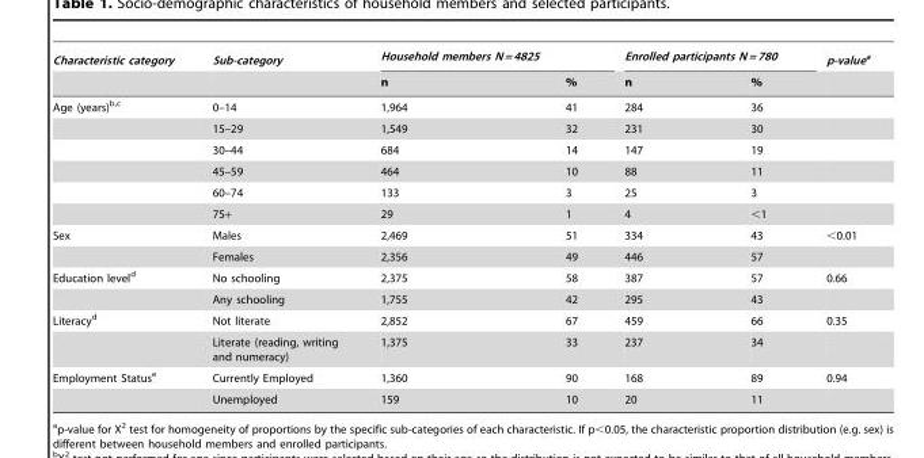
<table><thead><tr><td rowspan="2">Characteristic category</td><td rowspan="2">Sub-category</td><td colspan="2">Household members N = 4825</td><td colspan="2">Enrolled participants N = 780</td><td rowspan="2">p-valuea</td></tr><tr><td>n</td><td>%</td><td>n</td><td>%</td></tr></thead><tbody><tr><td rowspan="6">Age (years)b,c</td><td>0–14</td><td>1,964</td><td>41</td><td>284</td><td>36</td><td></td></tr><tr><td>15–29</td><td>1,549</td><td>32</td><td>231</td><td>30</td><td></td></tr><tr><td>30–44</td><td>684</td><td>14</td><td>147</td><td>19</td><td></td></tr><tr><td>45–59</td><td>464</td><td>10</td><td>88</td><td>11</td><td></td></tr><tr><td>60–74</td><td>133</td><td>3</td><td>25</td><td>3</td><td></td></tr><tr><td>75+</td><td>29</td><td>1</td><td>4</td><td>&lt;1</td><td></td></tr><tr><td rowspan="2">Sex</td><td>Males</td><td>2,469</td><td>51</td><td>334</td><td>43</td><td>&lt;0.01</td></tr><tr><td>Females</td><td>2,356</td><td>49</td><td>446</td><td>57</td><td></td></tr><tr><td rowspan="2">Education level<sup>d</sup></td><td>No schooling</td><td>2,375</td><td>58</td><td>387</td><td>57</td><td>0.66</td></tr><tr><td>Any schooling</td><td>1,755</td><td>42</td><td>295</td><td>43</td><td></td></tr><tr><td rowspan="2">Literacy<sup>d</sup></td><td>Not literate</td><td>2,852</td><td>67</td><td>459</td><td>66</td><td>0.35</td></tr><tr><td>Literate (reading, writing and numeracy)</td><td>1,375</td><td>33</td><td>237</td><td>34</td><td></td></tr><tr><td rowspan="2">Employment Status<sup>e</sup></td><td>Currently Employed</td><td>1,360</td><td>90</td><td>168</td><td>89</td><td>0.94</td></tr><tr><td>Unemployed</td><td>159</td><td>10</td><td>20</td><td>11</td><td></td></tr></tbody></table>